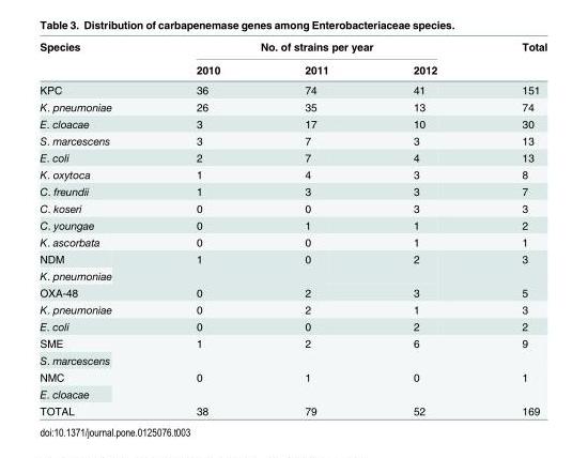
<table><thead><tr><td rowspan="2">Species</td><td colspan="3">No. of strains per year</td><td rowspan="2">Total</td></tr><tr><td>2010</td><td>2011</td><td>2012</td></tr></thead><tbody><tr><td>KPC</td><td>36</td><td>74</td><td>41</td><td>151</td></tr><tr><td>K. pneumoniae</td><td>26</td><td>35</td><td>13</td><td>74</td></tr><tr><td>E. cloacae</td><td>3</td><td>17</td><td>10</td><td>30</td></tr><tr><td>S. marcescens</td><td>3</td><td>7</td><td>3</td><td>13</td></tr><tr><td>E. coli</td><td>2</td><td>7</td><td>4</td><td>13</td></tr><tr><td>K. oxytoca</td><td>1</td><td>4</td><td>3</td><td>8</td></tr><tr><td>C. freundii</td><td>1</td><td>3</td><td>3</td><td>7</td></tr><tr><td>C. koseri</td><td>0</td><td>0</td><td>3</td><td>3</td></tr><tr><td>C. youngae</td><td>0</td><td>1</td><td>1</td><td>2</td></tr><tr><td>K. ascorbata</td><td>0</td><td>0</td><td>1</td><td>1</td></tr><tr><td>NDM</td><td rowspan="2">1</td><td rowspan="2">0</td><td rowspan="2">2</td><td rowspan="2">3</td></tr><tr><td>K. pneumoniae</td></tr><tr><td>OXA-48</td><td>0</td><td>2</td><td>3</td><td>5</td></tr><tr><td>K. pneumoniae</td><td>0</td><td>2</td><td>1</td><td>3</td></tr><tr><td>E. coli</td><td>0</td><td>0</td><td>2</td><td>2</td></tr><tr><td>SME</td><td rowspan="2">1</td><td rowspan="2">2</td><td rowspan="2">6</td><td rowspan="2">9</td></tr><tr><td>S. marcescens</td></tr><tr><td>NMC</td><td rowspan="2">0</td><td rowspan="2">1</td><td rowspan="2">0</td><td rowspan="2">1</td></tr><tr><td>E. cloacae</td></tr><tr><td>TOTAL</td><td>38</td><td>79</td><td>52</td><td>169</td></tr></tbody></table>